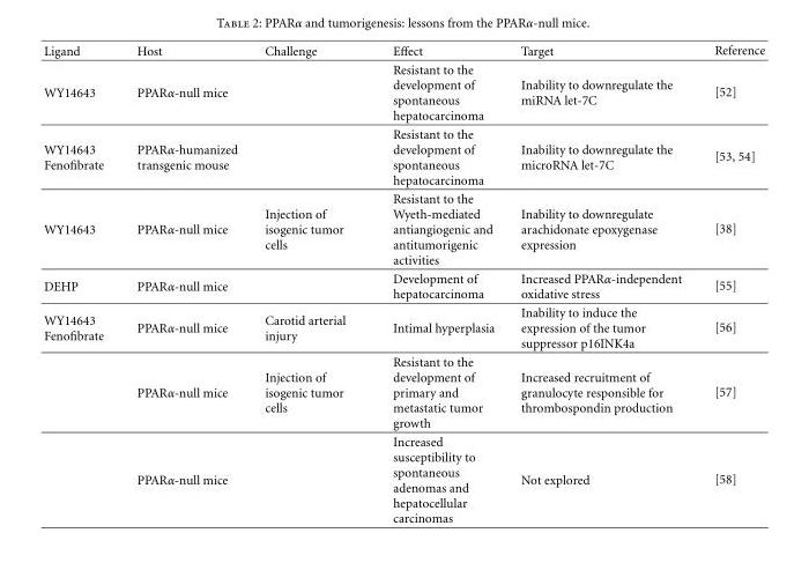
<table><thead><tr><td>Ligand</td><td>Host</td><td>Challenge</td><td>Effect</td><td>Target</td><td>Reference</td></tr></thead><tbody><tr><td>WY14643</td><td>PPARα-null mice</td><td></td><td>Resistant to the development of spontaneous hepatocarcinoma</td><td>Inability to downregulate the miRNA let-7C</td><td>[52]</td></tr><tr><td>WY14643 Fenofibrate</td><td>PPARα-humanized transgenic mouse</td><td></td><td>Resistant to the development of spontaneous hepatocarcinoma</td><td>Inability to downregulate the microRNA let-7C</td><td>[53, 54]</td></tr><tr><td>WY14643</td><td>PPARα-null mice</td><td>Injection of isogenic tumor cells</td><td>Resistant to the Wyeth-mediated antiangiogenic and antitumorigenic activities</td><td>Inability to downregulate arachidonate epoxygenase expression</td><td>[38]</td></tr><tr><td>DEHP</td><td>PPARα-null mice</td><td></td><td>Development of hepatocarcinoma</td><td>Increased PPARα-independent oxidative stress</td><td>[55]</td></tr><tr><td rowspan="3">WY14643 Fenofibrate</td><td>PPARα-null mice</td><td>Carotid arterial injury</td><td>Intimal hyperplasia</td><td>Inability to induce the expression of the tumor suppressor p16INK4a</td><td>[56]</td></tr><tr><td>PPARα-null mice</td><td>Injection of isogenic tumor cells</td><td>Resistant to the development of primary and metastatic tumor growth</td><td>Increased recruitment of granulocyte responsible for thrombospondin production</td><td>[57]</td></tr><tr><td>PPARα-null mice</td><td></td><td>Increased susceptibility to spontaneous adenomas and hepatocellular carcinomas</td><td>Not explored</td><td>[58]</td></tr></tbody></table>